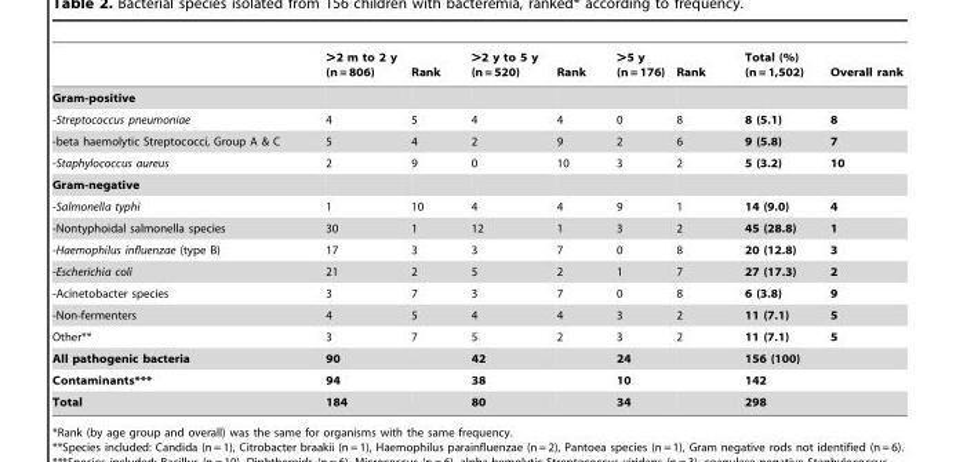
<table><thead><tr><td></td><td>&gt;2 m to 2 y (n = 806)</td><td>Rank</td><td>&gt;2 y to 5 y (n = 520)</td><td>Rank</td><td>&gt;5 y (n = 176)</td><td>Rank</td><td>Total (%) (n = 1,502)</td><td>Overall rank</td></tr></thead><tbody><tr><td colspan="9">Gram-positive</td></tr><tr><td>-Streptococcus pneumoniae</td><td>4</td><td>5</td><td>4</td><td>4</td><td>0</td><td>8</td><td>8 (5.1)</td><td>8</td></tr><tr><td>-beta haemolytic Streptococci, Group A &amp; C</td><td>5</td><td>4</td><td>2</td><td>9</td><td>2</td><td>6</td><td>9 (5.8)</td><td>7</td></tr><tr><td>-Staphylococcus aureus</td><td>2</td><td>9</td><td>0</td><td>10</td><td>3</td><td>2</td><td>5 (3.2)</td><td>10</td></tr><tr><td colspan="9">Gram-negative</td></tr><tr><td>-Salmonella typhi</td><td>1</td><td>10</td><td>4</td><td>4</td><td>9</td><td>1</td><td>14 (9.0)</td><td>4</td></tr><tr><td>-Nontyphoidal salmonella species</td><td>30</td><td>1</td><td>12</td><td>1</td><td>3</td><td>2</td><td>45 (28.8)</td><td>1</td></tr><tr><td>-Haemophilus influenzae (type B)</td><td>17</td><td>3</td><td>3</td><td>7</td><td>0</td><td>8</td><td>20 (12.8)</td><td>3</td></tr><tr><td>-Escherichia coli</td><td>21</td><td>2</td><td>5</td><td>2</td><td>1</td><td>7</td><td>27 (17.3)</td><td>2</td></tr><tr><td>-Acinetobacter species</td><td>3</td><td>7</td><td>3</td><td>7</td><td>0</td><td>8</td><td>6 (3.8)</td><td>9</td></tr><tr><td>-Non-fermenters</td><td>4</td><td>5</td><td>4</td><td>4</td><td>3</td><td>2</td><td>11 (7.1)</td><td>5</td></tr><tr><td>Other**</td><td>3</td><td>7</td><td>5</td><td>2</td><td>3</td><td>2</td><td>11 (7.1)</td><td>5</td></tr><tr><td>All pathogenic bacteria</td><td>90</td><td></td><td>42</td><td></td><td>24</td><td></td><td>156 (100)</td><td></td></tr><tr><td>Contaminants***</td><td>94</td><td></td><td>38</td><td></td><td>10</td><td></td><td>142</td><td></td></tr><tr><td>Total</td><td>184</td><td></td><td>80</td><td></td><td>34</td><td></td><td>298</td><td></td></tr></tbody></table>